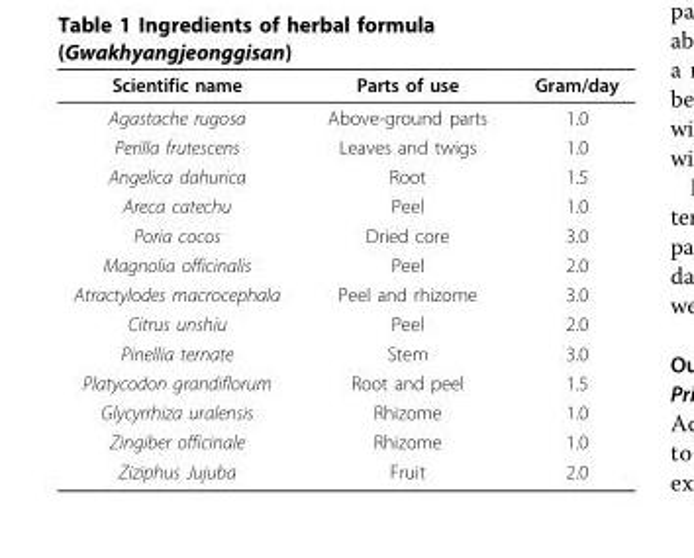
<table><thead><tr><td>Scientific name</td><td>Parts of use</td><td>Gram/day</td></tr></thead><tbody><tr><td>Agastache rugosa</td><td>Above-ground parts</td><td>1.0</td></tr><tr><td>Perilla frutescens</td><td>Leaves and twigs</td><td>1.0</td></tr><tr><td>Angelica dahurica</td><td>Root</td><td>1.5</td></tr><tr><td>Areca catechu</td><td>Peel</td><td>1.0</td></tr><tr><td>Poria cocos</td><td>Dried core</td><td>3.0</td></tr><tr><td>Magnolia officinalis</td><td>Peel</td><td>2.0</td></tr><tr><td>Atractylodes macrocephala</td><td>Peel and rhizome</td><td>3.0</td></tr><tr><td>Citrus unshiu</td><td>Peel</td><td>2.0</td></tr><tr><td>Pinellia ternate</td><td>Stem</td><td>3.0</td></tr><tr><td>Platycodon grandiflorum</td><td>Root and peel</td><td>1.5</td></tr><tr><td>Glycyrrhiza uralensis</td><td>Rhizome</td><td>1.0</td></tr><tr><td>Zingiber officinale</td><td>Rhizome</td><td>1.0</td></tr><tr><td>Ziziphus Jujuba</td><td>Fruit</td><td>2.0</td></tr></tbody></table>